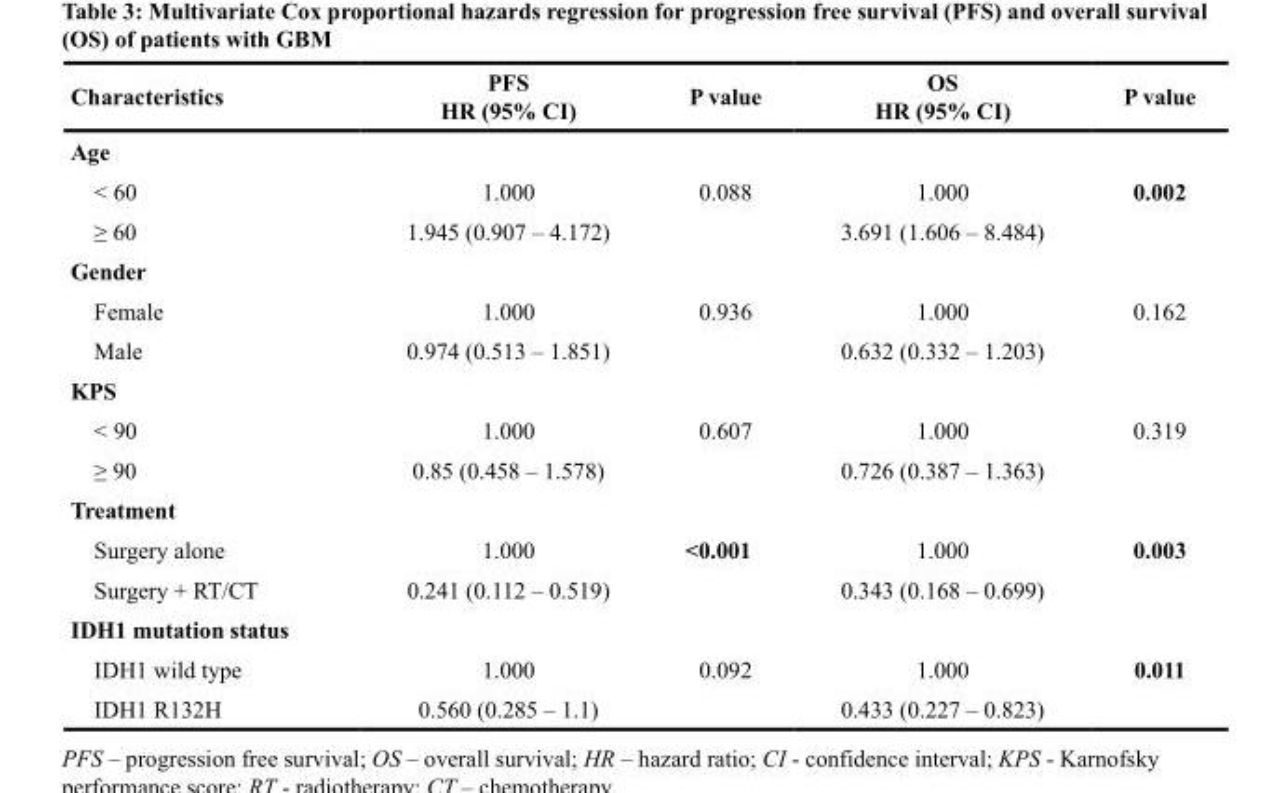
<table><thead><tr><td>Characteristics</td><td>PFS HR (95% CI)</td><td>P value</td><td>OS HR (95% CI)</td><td>P value</td></tr></thead><tbody><tr><td colspan="5">Age</td></tr><tr><td>&lt; 60</td><td>1.000</td><td>0.088</td><td>1.000</td><td>0.002</td></tr><tr><td>≥ 60</td><td>1.945 (0.907 – 4.172)</td><td></td><td>3.691 (1.606 – 8.484)</td><td></td></tr><tr><td colspan="5">Gender</td></tr><tr><td>Female</td><td>1.000</td><td>0.936</td><td>1.000</td><td>0.162</td></tr><tr><td>Male</td><td>0.974 (0.513 – 1.851)</td><td></td><td>0.632 (0.332 – 1.203)</td><td></td></tr><tr><td colspan="5">KPS</td></tr><tr><td>&lt; 90</td><td>1.000</td><td>0.607</td><td>1.000</td><td>0.319</td></tr><tr><td>≥ 90</td><td>0.85 (0.458 – 1.578)</td><td></td><td>0.726 (0.387 – 1.363)</td><td></td></tr><tr><td colspan="5">Treatment</td></tr><tr><td>Surgery alone</td><td>1.000</td><td>&lt;0.001</td><td>1.000</td><td>0.003</td></tr><tr><td>Surgery + RT/CT</td><td>0.241 (0.112 – 0.519)</td><td></td><td>0.343 (0.168 – 0.699)</td><td></td></tr><tr><td colspan="5">IDH1 mutation status</td></tr><tr><td>IDH1 wild type</td><td>1.000</td><td>0.092</td><td>1.000</td><td>0.011</td></tr><tr><td>IDH1 R132H</td><td>0.560 (0.285 – 1.1)</td><td></td><td>0.433 (0.227 – 0.823)</td><td></td></tr></tbody></table>